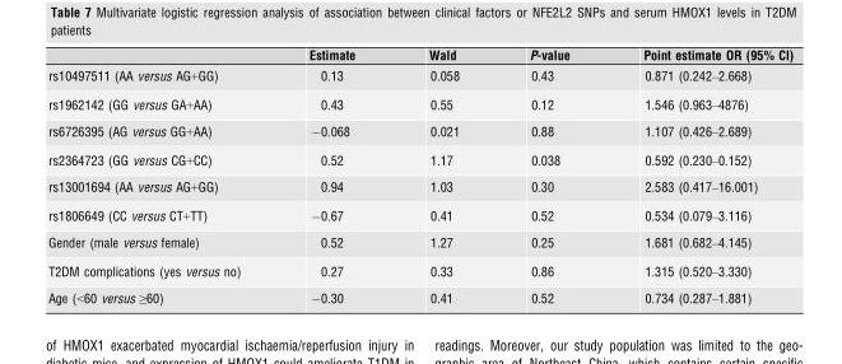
<table><thead><tr><td></td><td>Estimate</td><td>Wald</td><td>P-value</td><td>Point estimate OR (95% CI)</td></tr></thead><tbody><tr><td>rs10497511 (AA versus AG+GG)</td><td>0.13</td><td>0.058</td><td>0.43</td><td>0.871 (0.242–2.668)</td></tr><tr><td>rs1962142 (GG versus GA+AA)</td><td>0.43</td><td>0.55</td><td>0.12</td><td>1.546 (0.963–4876)</td></tr><tr><td>rs6726395 (AG versus GG+AA)</td><td>−0.068</td><td>0.021</td><td>0.88</td><td>1.107 (0.426–2.689)</td></tr><tr><td>rs2364723 (GG versus CG+CC)</td><td>0.52</td><td>1.17</td><td>0.038</td><td>0.592 (0.230–0.152)</td></tr><tr><td>rs13001694 (AA versus AG+GG)</td><td>0.94</td><td>1.03</td><td>0.30</td><td>2.583 (0.417–16.001)</td></tr><tr><td>rs1806649 (CC versus CT+TT)</td><td>−0.67</td><td>0.41</td><td>0.52</td><td>0.534 (0.079–3.116)</td></tr><tr><td>Gender (male versus female)</td><td>0.52</td><td>1.27</td><td>0.25</td><td>1.681 (0.682–4.145)</td></tr><tr><td>T2DM complications (yes versus no)</td><td>0.27</td><td>0.33</td><td>0.86</td><td>1.315 (0.520–3.330)</td></tr><tr><td>Age (&lt;60 versus ≥60)</td><td>−0.30</td><td>0.41</td><td>0.52</td><td>0.734 (0.287–1.881)</td></tr></tbody></table>